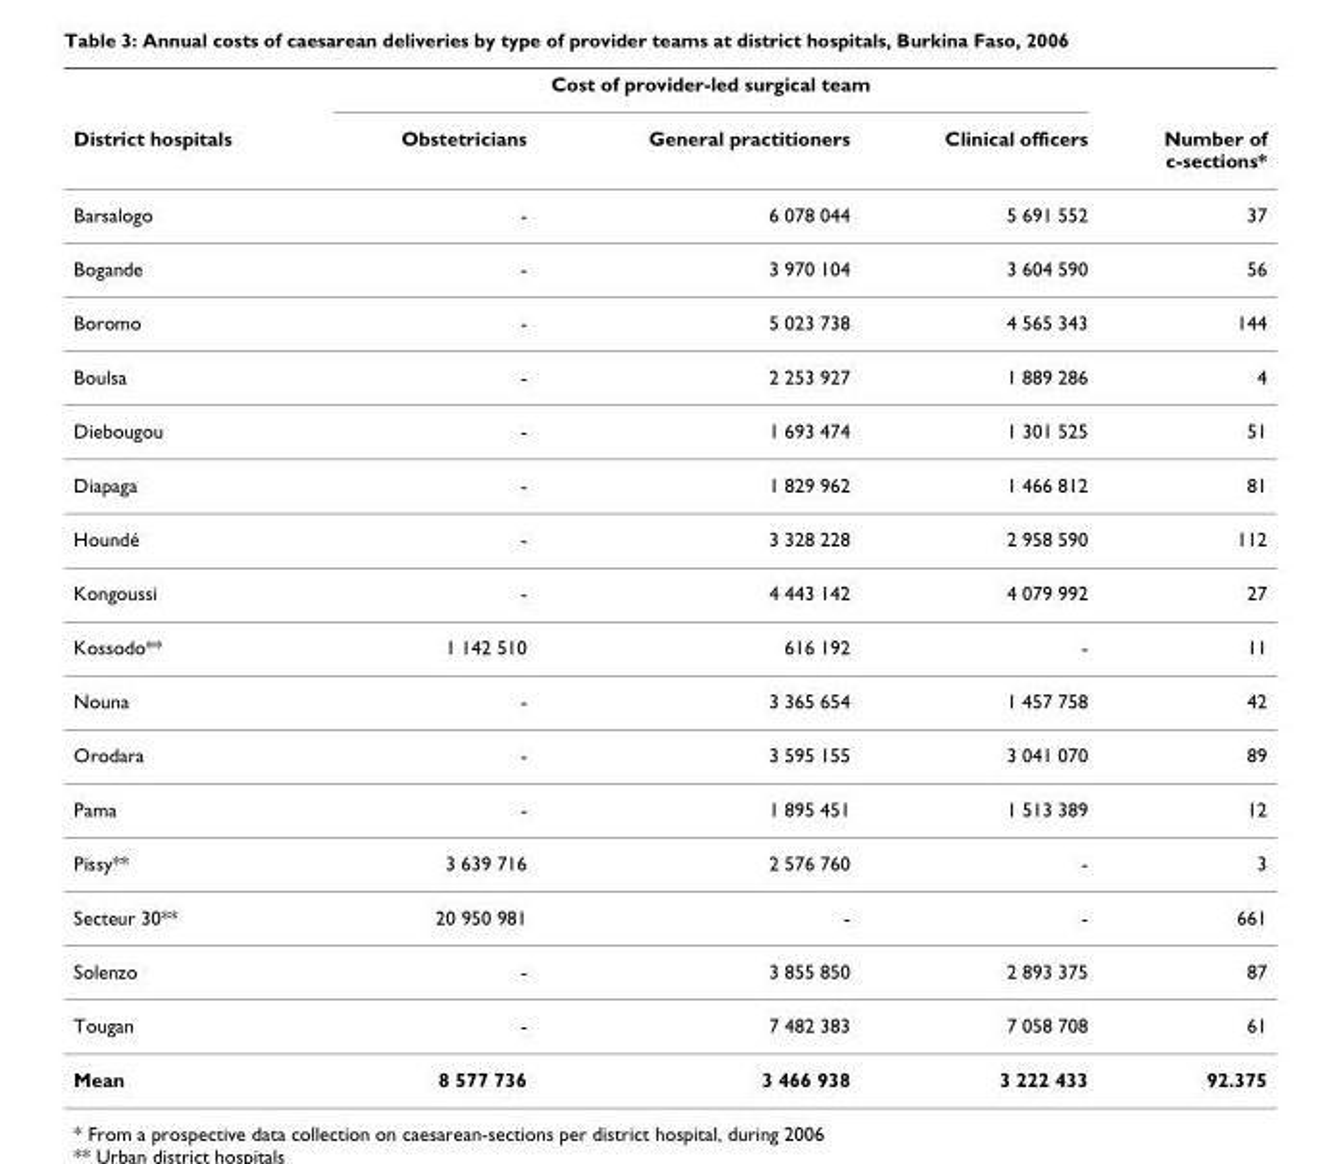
<table><thead><tr><td rowspan="2">District hospitals</td><td colspan="3">Cost of provider-led surgical team</td><td rowspan="2">Number of c-sections*</td></tr><tr><td>Obstetricians</td><td>General practitioners</td><td>Clinical officers</td></tr></thead><tbody><tr><td>Barsalogo</td><td>-</td><td>6 078 044</td><td>5 691 552</td><td>37</td></tr><tr><td>Bogande</td><td>-</td><td>3 970 104</td><td>3 604 590</td><td>56</td></tr><tr><td>Boromo</td><td>-</td><td>5 023 738</td><td>4 565 343</td><td>144</td></tr><tr><td>Boulsa</td><td>-</td><td>2 253 927</td><td>1 889 286</td><td>4</td></tr><tr><td>Diebougou</td><td>-</td><td>1 693 474</td><td>1 301 525</td><td>51</td></tr><tr><td>Diapaga</td><td>-</td><td>1 829 962</td><td>1 466 812</td><td>81</td></tr><tr><td>Houndé</td><td>-</td><td>3 328 228</td><td>2 958 590</td><td>112</td></tr><tr><td>Kongoussi</td><td>-</td><td>4 443 142</td><td>4 079 992</td><td>27</td></tr><tr><td>Kossodo**</td><td>1 142 510</td><td>616 192</td><td>-</td><td>11</td></tr><tr><td>Nouna</td><td>-</td><td>3 365 654</td><td>1 457 758</td><td>42</td></tr><tr><td>Orodara</td><td>-</td><td>3 595 155</td><td>3 041 070</td><td>89</td></tr><tr><td>Pama</td><td>-</td><td>1 895 451</td><td>1 513 389</td><td>12</td></tr><tr><td>Pissy**</td><td>3 639 716</td><td>2 576 760</td><td>-</td><td>3</td></tr><tr><td>Secteur 30**</td><td>20 950 981</td><td>-</td><td>-</td><td>661</td></tr><tr><td>Solenzo</td><td>-</td><td>3 855 850</td><td>2 893 375</td><td>87</td></tr><tr><td>Tougan</td><td>-</td><td>7 482 383</td><td>7 058 708</td><td>61</td></tr><tr><td>Mean</td><td>8 577 736</td><td>3 466 938</td><td>3 222 433</td><td>92.375</td></tr></tbody></table>